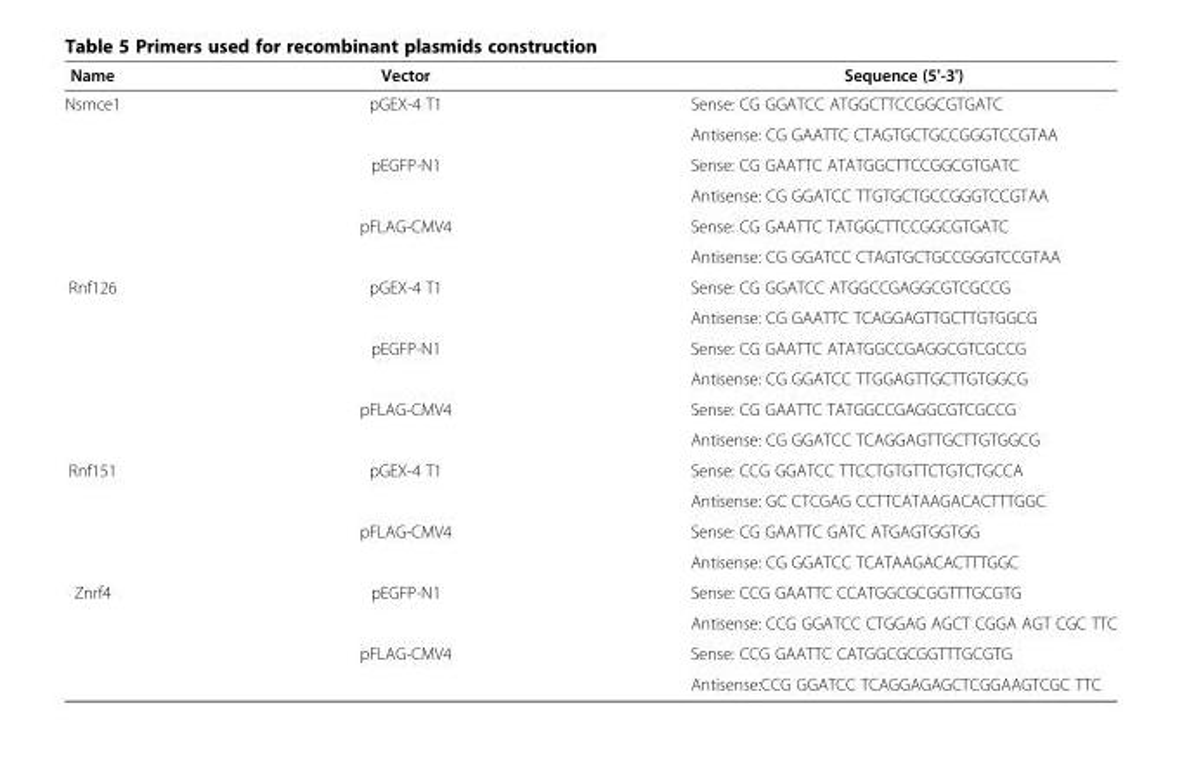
<table><thead><tr><td>Name</td><td>Vector</td><td>Sequence (5&#x27;-3&#x27;)</td></tr></thead><tbody><tr><td rowspan="6">Nsmce1</td><td rowspan="2">pGEX-4 T1</td><td>Sense: CG GGATCC ATGGCTTCCGGCGTGATC</td></tr><tr><td>Antisense: CG GAATTC CTAGTGCTGCCGGGTCCGTAA</td></tr><tr><td rowspan="2">pEGFP-N1</td><td>Sense: CG GAATTC ATATGGCTTCCGGCGTGATC</td></tr><tr><td>Antisense: CG GGATCC TTGTGCTGCCGGGTCCGTAA</td></tr><tr><td rowspan="2">pFLAG-CMV4</td><td>Sense: CG GAATTC TATGGCTTCCGGCGTGATC</td></tr><tr><td>Antisense: CG GGATCC CTAGTGCTGCCGGGTCCGTAA</td></tr><tr><td rowspan="6">Rnf126</td><td rowspan="2">pGEX-4 T1</td><td>Sense: CG GGATCC ATGGCCGAGGCGTCGCCG</td></tr><tr><td>Antisense: CG GAATTC TCAGGAGTTGCTTGTGGCG</td></tr><tr><td rowspan="2">pEGFP-N1</td><td>Sense: CG GAATTC ATATGGCCGAGGCGTCGCCG</td></tr><tr><td>Antisense: CG GGATCC TTGGAGTTGCTTGTGGCG</td></tr><tr><td rowspan="2">pFLAG-CMV4</td><td>Sense: CG GAATTC TATGGCCGAGGCGTCGCCG</td></tr><tr><td>Antisense: CG GGATCC TCAGGAGTTGCTTGTGGCG</td></tr><tr><td rowspan="4">Rnf151</td><td rowspan="2">pGEX-4 T1</td><td>Sense: CCG GGATCC TTCCTGTGTTCTGTCTGCCA</td></tr><tr><td>Antisense: GC CTCGAG CCTTCATAAGACACTTTGGC</td></tr><tr><td rowspan="2">pFLAG-CMV4</td><td>Sense: CG GAATTC GATC ATGAGTGGTGG</td></tr><tr><td>Antisense: CG GGATCC TCATAAGACACTTTGGC</td></tr><tr><td rowspan="4">Znrf4</td><td rowspan="2">pEGFP-N1</td><td>Sense: CCG GAATTC CCATGGCGCGGTTTGCGTG</td></tr><tr><td>Antisense: CCG GGATCC CTGGAG AGCT CGGA AGT CGC TTC</td></tr><tr><td>pFLAG-CMV4</td><td>Sense: CCG GAATTC CATGGCGCGGTTTGCGTG</td></tr><tr><td></td><td>Antisense:CCG GGATCC TCAGGAGAGCTCGGAAGTCGC TTC</td></tr></tbody></table>